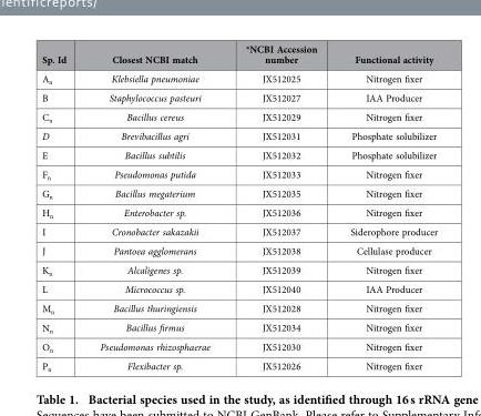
<table><thead><tr><td>Sp. Id</td><td>Closest NCBI match</td><td>*NCBI Accession number</td><td>Functional activity</td></tr></thead><tbody><tr><td>A<sub>n</sub></td><td>Klebsiella pneumoniae</td><td>JX512025</td><td>Nitrogen fixer</td></tr><tr><td>B</td><td>Staphylococcus pasteuri</td><td>JX512027</td><td>IAA Producer</td></tr><tr><td>C<sub>n</sub></td><td>Bacillus cereus</td><td>JX512029</td><td>Nitrogen fixer</td></tr><tr><td>D</td><td>Brevibacillus agri</td><td>JX512031</td><td>Phosphate solubilizer</td></tr><tr><td>E</td><td>Bacillus subtilis</td><td>JX512032</td><td>Phosphate solubilizer</td></tr><tr><td>F<sub>n</sub></td><td>Pseudomonas putida</td><td>JX512033</td><td>Nitrogen fixer</td></tr><tr><td>G<sub>n</sub></td><td>Bacillus megaterium</td><td>JX512035</td><td>Nitrogen fixer</td></tr><tr><td>H<sub>n</sub></td><td>Enterobacter sp.</td><td>JX512036</td><td>Nitrogen fixer</td></tr><tr><td>I</td><td>Cronobacter sakazakii</td><td>JX512037</td><td>Siderophore producer</td></tr><tr><td>J</td><td>Pantoea agglomerans</td><td>JX512038</td><td>Cellulase producer</td></tr><tr><td>K<sub>n</sub></td><td>Alcaligenes sp.</td><td>JX512039</td><td>Nitrogen fixer</td></tr><tr><td>L</td><td>Micrococcus sp.</td><td>JX512040</td><td>IAA Producer</td></tr><tr><td>M<sub>n</sub></td><td>Bacillus thuringiensis</td><td>JX512028</td><td>Nitrogen fixer</td></tr><tr><td>N<sub>n</sub></td><td>Bacillus firmus</td><td>JX512034</td><td>Nitrogen fixer</td></tr><tr><td>O<sub>n</sub></td><td>Pseudomonas rhizosphaerae</td><td>JX512030</td><td>Nitrogen fixer</td></tr><tr><td>P<sub>n</sub></td><td>Flexibacter sp.</td><td>JX512026</td><td>Nitrogen fixer</td></tr></tbody></table>